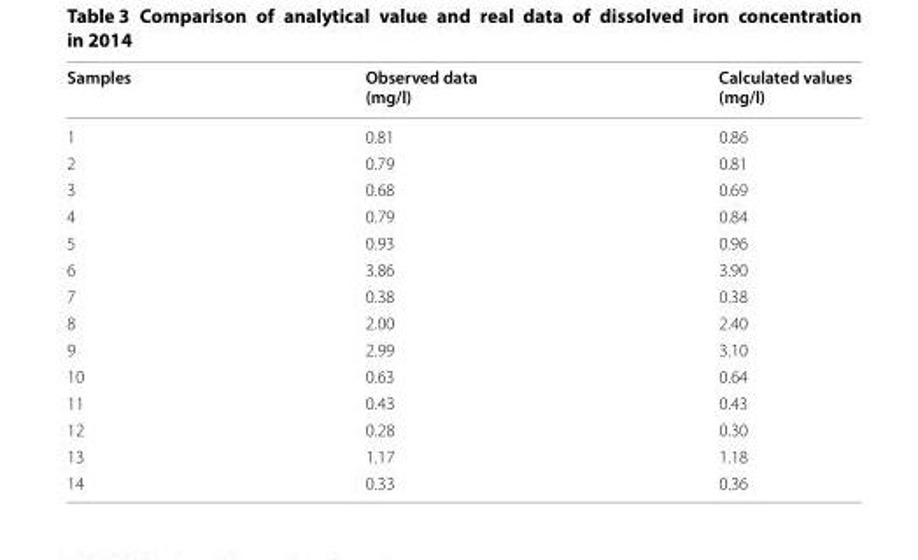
<table><thead><tr><td>Samples</td><td>Observed data (mg/l)</td><td>Calculated values (mg/l)</td></tr></thead><tbody><tr><td>1</td><td>0.81</td><td>0.86</td></tr><tr><td>2</td><td>0.79</td><td>0.81</td></tr><tr><td>3</td><td>0.68</td><td>0.69</td></tr><tr><td>4</td><td>0.79</td><td>0.84</td></tr><tr><td>5</td><td>0.93</td><td>0.96</td></tr><tr><td>6</td><td>3.86</td><td>3.90</td></tr><tr><td>7</td><td>0.38</td><td>0.38</td></tr><tr><td>8</td><td>2.00</td><td>2.40</td></tr><tr><td>9</td><td>2.99</td><td>3.10</td></tr><tr><td>10</td><td>0.63</td><td>0.64</td></tr><tr><td>11</td><td>0.43</td><td>0.43</td></tr><tr><td>12</td><td>0.28</td><td>0.30</td></tr><tr><td>13</td><td>1.17</td><td>1.18</td></tr><tr><td>14</td><td>0.33</td><td>0.36</td></tr></tbody></table>